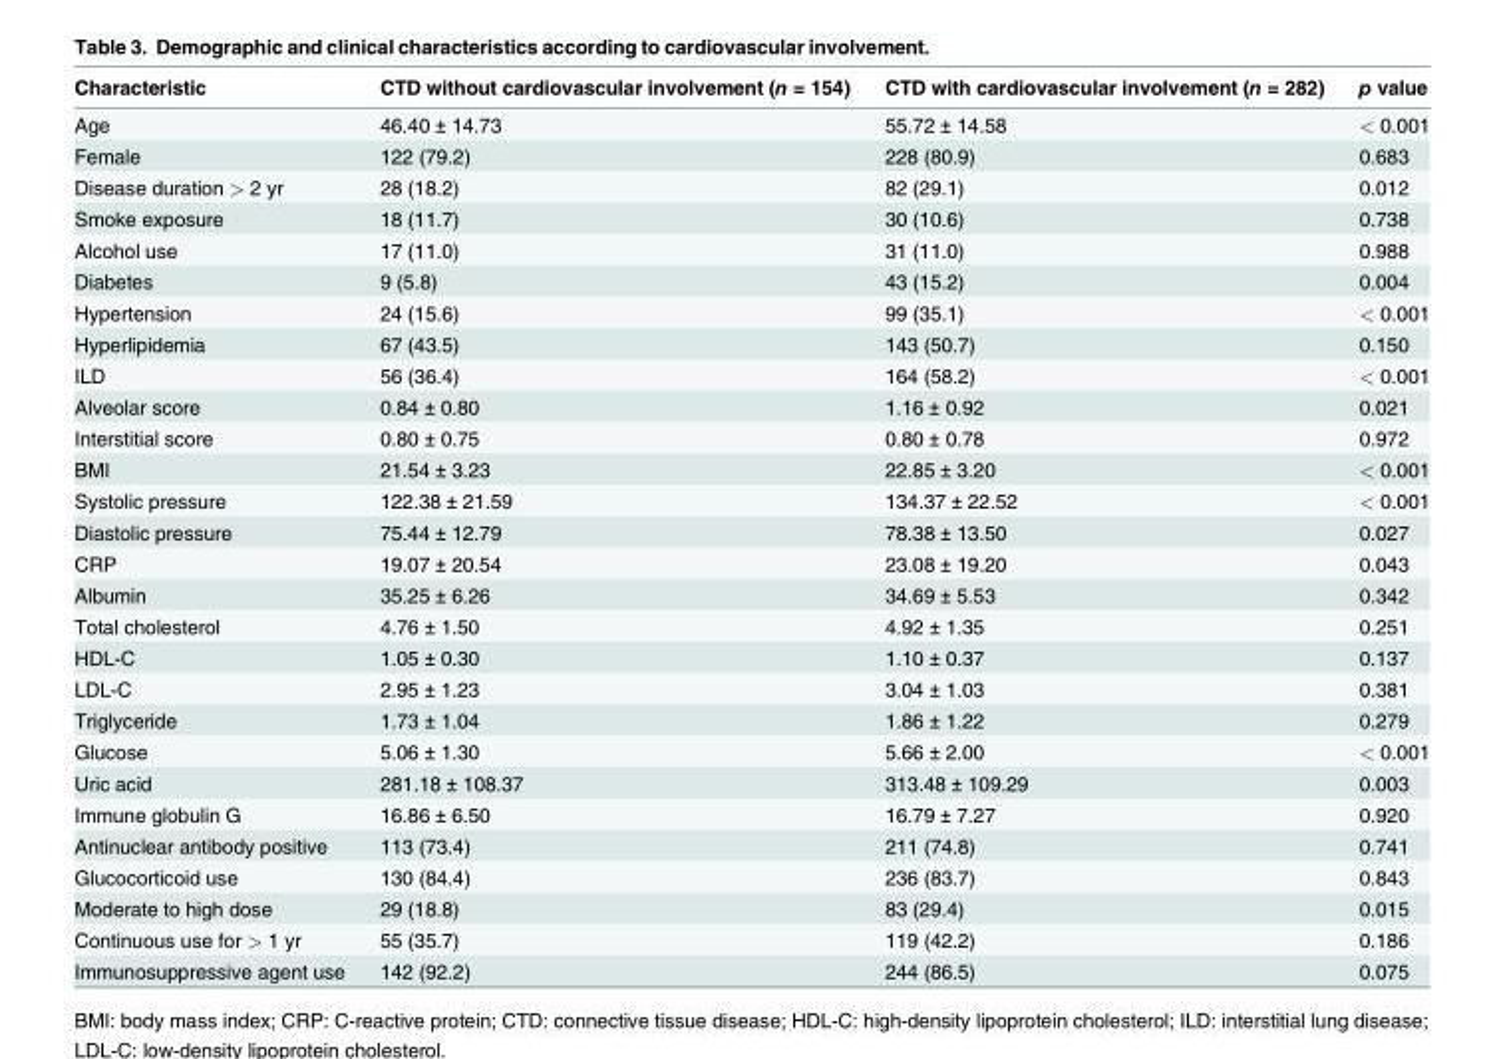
<table><thead><tr><td>Characteristic</td><td>CTD without cardiovascular involvement (n = 154)</td><td>CTD with cardiovascular involvement (n = 282)</td><td>p value</td></tr></thead><tbody><tr><td>Age</td><td>46.40 ± 14.73</td><td>55.72 ± 14.58</td><td>&lt; 0.001</td></tr><tr><td>Female</td><td>122 (79.2)</td><td>228 (80.9)</td><td>0.683</td></tr><tr><td>Disease duration &gt; 2 yr</td><td>28 (18.2)</td><td>82 (29.1)</td><td>0.012</td></tr><tr><td>Smoke exposure</td><td>18 (11.7)</td><td>30 (10.6)</td><td>0.738</td></tr><tr><td>Alcohol use</td><td>17 (11.0)</td><td>31 (11.0)</td><td>0.988</td></tr><tr><td>Diabetes</td><td>9 (5.8)</td><td>43 (15.2)</td><td>0.004</td></tr><tr><td>Hypertension</td><td>24 (15.6)</td><td>99 (35.1)</td><td>&lt; 0.001</td></tr><tr><td>Hyperlipidemia</td><td>67 (43.5)</td><td>143 (50.7)</td><td>0.150</td></tr><tr><td>ILD</td><td>56 (36.4)</td><td>164 (58.2)</td><td>&lt; 0.001</td></tr><tr><td>Alveolar score</td><td>0.84 ± 0.80</td><td>1.16 ± 0.92</td><td>0.021</td></tr><tr><td>Interstitial score</td><td>0.80 ± 0.75</td><td>0.80 ± 0.78</td><td>0.972</td></tr><tr><td>BMI</td><td>21.54 ± 3.23</td><td>22.85 ± 3.20</td><td>&lt; 0.001</td></tr><tr><td>Systolic pressure</td><td>122.38 ± 21.59</td><td>134.37 ± 22.52</td><td>&lt; 0.001</td></tr><tr><td>Diastolic pressure</td><td>75.44 ± 12.79</td><td>78.38 ± 13.50</td><td>0.027</td></tr><tr><td>CRP</td><td>19.07 ± 20.54</td><td>23.08 ± 19.20</td><td>0.043</td></tr><tr><td>Albumin</td><td>35.25 ± 6.26</td><td>34.69 ± 5.53</td><td>0.342</td></tr><tr><td>Total cholesterol</td><td>4.76 ± 1.50</td><td>4.92 ± 1.35</td><td>0.251</td></tr><tr><td>HDL-C</td><td>1.05 ± 0.30</td><td>1.10 ± 0.37</td><td>0.137</td></tr><tr><td>LDL-C</td><td>2.95 ± 1.23</td><td>3.04 ± 1.03</td><td>0.381</td></tr><tr><td>Triglyceride</td><td>1.73 ± 1.04</td><td>1.86 ± 1.22</td><td>0.279</td></tr><tr><td>Glucose</td><td>5.06 ± 1.30</td><td>5.66 ± 2.00</td><td>&lt; 0.001</td></tr><tr><td>Uric acid</td><td>281.18 ± 108.37</td><td>313.48 ± 109.29</td><td>0.003</td></tr><tr><td>Immune globulin G</td><td>16.86 ± 6.50</td><td>16.79 ± 7.27</td><td>0.920</td></tr><tr><td>Antinuclear antibody positive</td><td>113 (73.4)</td><td>211 (74.8)</td><td>0.741</td></tr><tr><td>Glucocorticoid use</td><td>130 (84.4)</td><td>236 (83.7)</td><td>0.843</td></tr><tr><td>Moderate to high dose</td><td>29 (18.8)</td><td>83 (29.4)</td><td>0.015</td></tr><tr><td>Continuous use for &gt; 1 yr</td><td>55 (35.7)</td><td>119 (42.2)</td><td>0.186</td></tr><tr><td>Immunosuppressive agent use</td><td>142 (92.2)</td><td>244 (86.5)</td><td>0.075</td></tr></tbody></table>